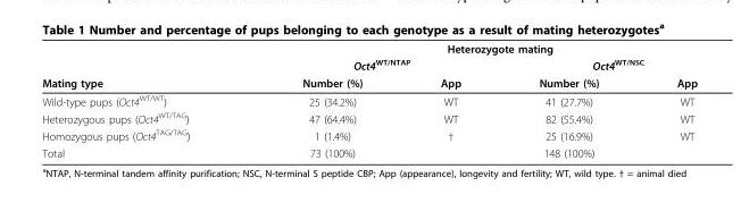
<table><thead><tr><td rowspan="3">Mating type</td><td colspan="4">Heterozygote mating</td></tr><tr><td colspan="2">Oct4<sup>WT/NTAP</sup></td><td colspan="2">Oct4<sup>WT/NSC</sup></td></tr><tr><td>Number (%)</td><td>App</td><td>Number (%)</td><td>App</td></tr></thead><tbody><tr><td>Wild-type pups (Oct4<sup>WT/WT</sup>)</td><td>25 (34.2%)</td><td>WT</td><td>41 (27.7%)</td><td>WT</td></tr><tr><td>Heterozygous pups (Oct4<sup>WT/TAG</sup>)</td><td>47 (64.4%)</td><td>WT</td><td>82 (55.4%)</td><td>WT</td></tr><tr><td>Homozygous pups (Oct4<sup>TAG/TAG</sup>)</td><td>1 (1.4%)</td><td>†</td><td>25 (16.9%)</td><td>WT</td></tr><tr><td>Total</td><td>73 (100%)</td><td></td><td>148 (100%)</td><td></td></tr></tbody></table>